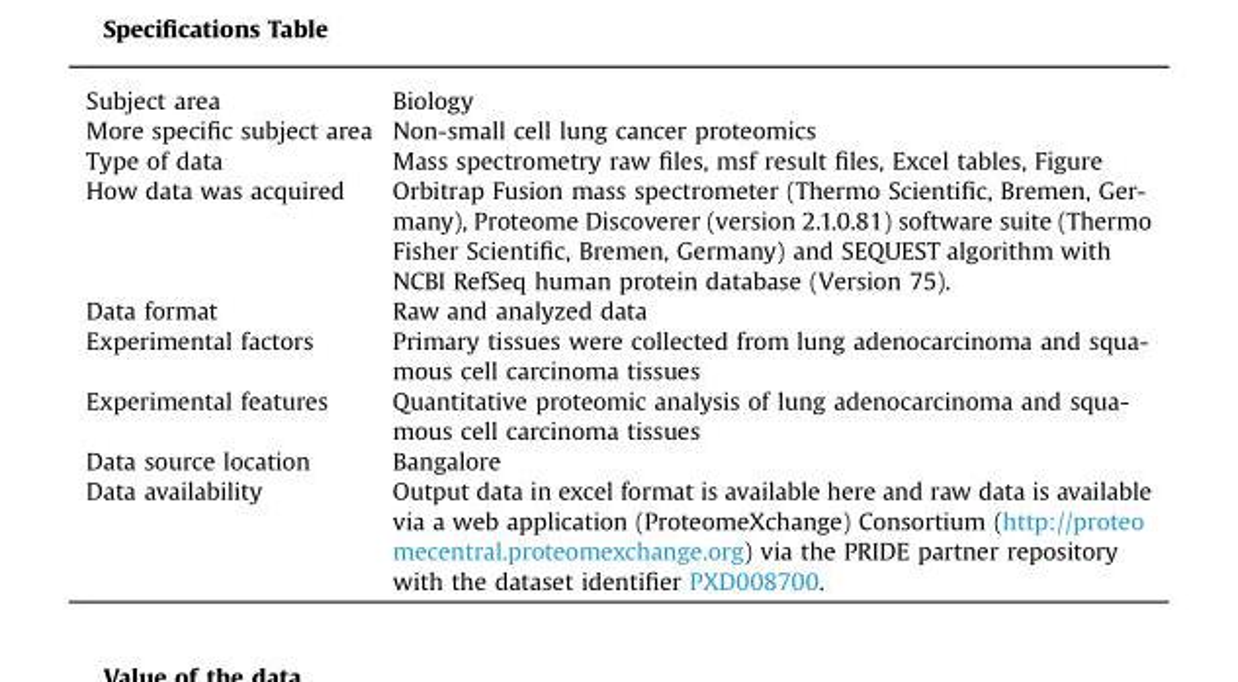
<table><thead><tr><td>Subject area</td><td>Biology</td></tr></thead><tbody><tr><td>More specific subject area</td><td>Non-small cell lung cancer proteomics</td></tr><tr><td>Type of data</td><td>Mass spectrometry raw files, msf result files, Excel tables, Figure</td></tr><tr><td>How data was acquired</td><td>Orbitrap Fusion mass spectrometer (Thermo Scientific, Bremen, Ger- many), Proteome Discoverer (version 2.1.0.81) software suite (Thermo Fisher Scientific, Bremen, Germany) and SEQUEST algorithm with NCBI RefSeq human protein database (Version 75).</td></tr><tr><td>Data format</td><td>Raw and analyzed data</td></tr><tr><td>Experimental factors</td><td>Primary tissues were collected from lung adenocarcinoma and squa- mous cell carcinoma tissues</td></tr><tr><td>Experimental features</td><td>Quantitative proteomic analysis of lung adenocarcinoma and squa- mous cell carcinoma tissues</td></tr><tr><td>Data source location</td><td>Bangalore</td></tr><tr><td>Data availability</td><td>Output data in excel format is available here and raw data is available via a web application (ProteomeXchange) Consortium (http://proteo mecentral.proteomexchange.org) via the PRIDE partner repository with the dataset identifier PXD008700.</td></tr></tbody></table>